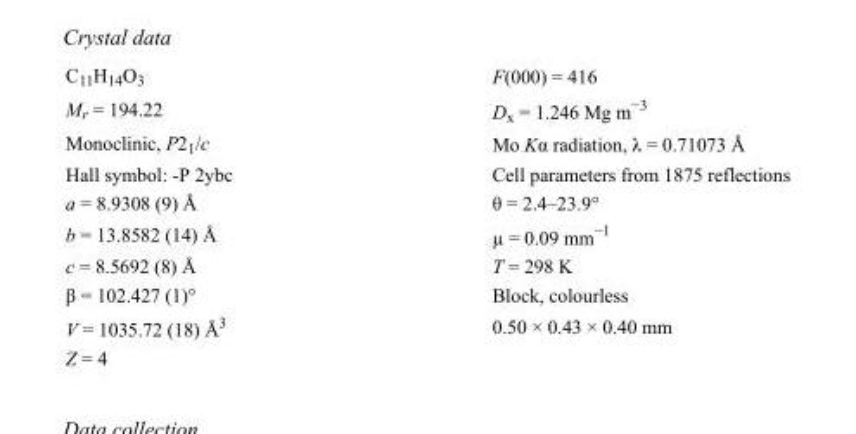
<table><tbody><tr><td>C<sub>11</sub>H<sub>14</sub>O<sub>3</sub></td><td>F(000) = 416</td></tr><tr><td>M<sub>r</sub> = 194.22</td><td>D<sub>x</sub> = 1.246 Mg m<sup>−3</sup></td></tr><tr><td>Monoclinic, P2<sub>1</sub>/c</td><td>Mo Kα radiation, λ = 0.71073 Å</td></tr><tr><td>Hall symbol: -P 2ybc</td><td>Cell parameters from 1875 reflections</td></tr><tr><td>a = 8.9308 (9) Å</td><td>θ = 2.4–23.9°</td></tr><tr><td>b = 13.8582 (14) Å</td><td>µ = 0.09 mm<sup>−1</sup></td></tr><tr><td>c = 8.5692 (8) Å</td><td>T = 298 K</td></tr><tr><td>β = 102.427 (1)°</td><td>Block, colourless</td></tr><tr><td>V = 1035.72 (18) Å<sup>3</sup></td><td>0.50 × 0.43 × 0.40 mm</td></tr><tr><td>Z = 4</td><td></td></tr></tbody></table>